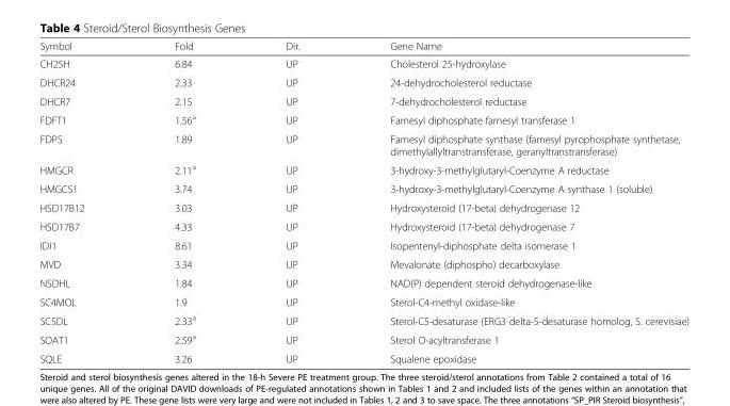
<table><thead><tr><td>Symbol</td><td>Fold</td><td>Dir.</td><td>Gene Name</td></tr></thead><tbody><tr><td>CH25H</td><td>6.84</td><td>UP</td><td>Cholesterol 25-hydroxylase</td></tr><tr><td>DHCR24</td><td>2.33</td><td>UP</td><td>24-dehydrocholesterol reductase</td></tr><tr><td>DHCR7</td><td>2.15</td><td>UP</td><td>7-dehydrocholesterol reductase</td></tr><tr><td>FDFT1</td><td>1.56<sup>a</sup></td><td>UP</td><td>Farnesyl diphosphate farnesyl transferase 1</td></tr><tr><td>FDPS</td><td>1.89</td><td>UP</td><td>Farnesyl diphosphate synthase (farnesyl pyrophosphate synthetase, dimethylallyltranstransferase, geranyltranstransferase)</td></tr><tr><td>HMGCR</td><td>2.11<sup>a</sup></td><td>UP</td><td>3-hydroxy-3-methylglutaryl-Coenzyme A reductase</td></tr><tr><td>HMGCS1</td><td>3.74</td><td>UP</td><td>3-hydroxy-3-methylglutaryl-Coenzyme A synthase 1 (soluble)</td></tr><tr><td>HSD17B12</td><td>3.03</td><td>UP</td><td>Hydroxysteroid (17-beta) dehydrogenase 12</td></tr><tr><td>HSD17B7</td><td>4.33</td><td>UP</td><td>Hydroxysteroid (17-beta) dehydrogenase 7</td></tr><tr><td>IDI1</td><td>8.61</td><td>UP</td><td>Isopentenyl-diphosphate delta isomerase 1</td></tr><tr><td>MVD</td><td>3.34</td><td>UP</td><td>Mevalonate (diphospho) decarboxylase</td></tr><tr><td>NSDHL</td><td>1.84</td><td>UP</td><td>NAD(P) dependent steroid dehydrogenase-like</td></tr><tr><td>SC4MOL</td><td>1.9</td><td>UP</td><td>Sterol-C4-methyl oxidase-like</td></tr><tr><td>SC5DL</td><td>2.33<sup>a</sup></td><td>UP</td><td>Sterol-C5-desaturase (ERG3 delta-5-desaturase homolog, S. cerevisiae)</td></tr><tr><td>SOAT1</td><td>2.59<sup>a</sup></td><td>UP</td><td>Sterol O-acyltransferase 1</td></tr><tr><td>SQLE</td><td>3.26</td><td>UP</td><td>Squalene epoxidase</td></tr></tbody></table>